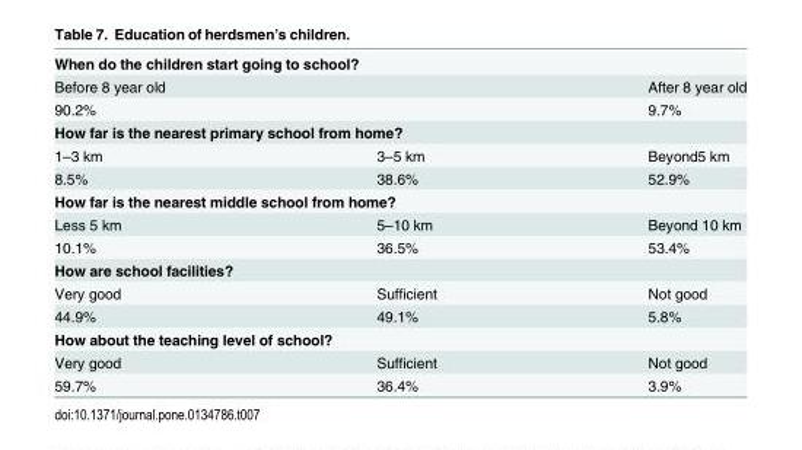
<table><tbody><tr><td colspan="3">When do the children start going to school?</td></tr><tr><td>Before 8 year old</td><td></td><td>After 8 year old</td></tr><tr><td>90.2%</td><td></td><td>9.7%</td></tr><tr><td colspan="3">How far is the nearest primary school from home?</td></tr><tr><td>1–3 km</td><td>3–5 km</td><td>Beyond5 km</td></tr><tr><td>8.5%</td><td>38.6%</td><td>52.9%</td></tr><tr><td colspan="3">How far is the nearest middle school from home?</td></tr><tr><td>Less 5 km</td><td>5–10 km</td><td>Beyond 10 km</td></tr><tr><td>10.1%</td><td>36.5%</td><td>53.4%</td></tr><tr><td colspan="3">How are school facilities?</td></tr><tr><td>Very good</td><td>Sufficient</td><td>Not good</td></tr><tr><td>44.9%</td><td>49.1%</td><td>5.8%</td></tr><tr><td colspan="3">How about the teaching level of school?</td></tr><tr><td>Very good</td><td>Sufficient</td><td>Not good</td></tr><tr><td>59.7%</td><td>36.4%</td><td>3.9%</td></tr></tbody></table>